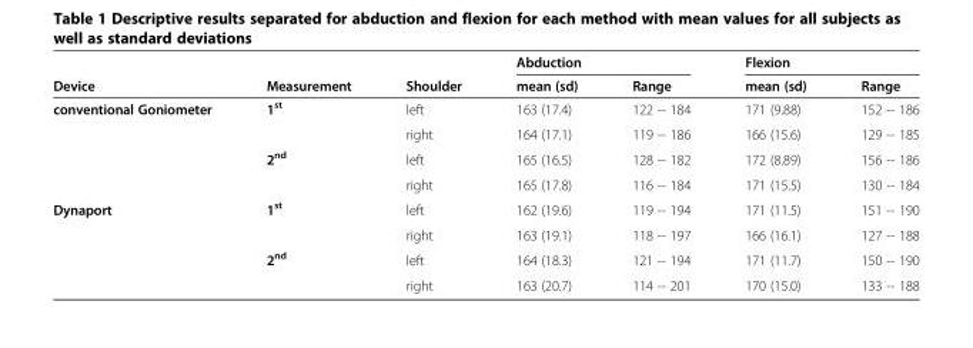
<table><thead><tr><td rowspan="2">Device</td><td rowspan="2">Measurement</td><td rowspan="2">Shoulder</td><td colspan="2">Abduction</td><td colspan="2">Flexion</td></tr><tr><td>mean (sd)</td><td>Range</td><td>mean (sd)</td><td>Range</td></tr></thead><tbody><tr><td rowspan="4">conventional Goniometer</td><td rowspan="2">1<sup>st</sup></td><td>left</td><td>163 (17.4)</td><td>122 -- 184</td><td>171 (9.88)</td><td>152 -- 186</td></tr><tr><td>right</td><td>164 (17.1)</td><td>119 -- 186</td><td>166 (15.6)</td><td>129 -- 185</td></tr><tr><td rowspan="2">2<sup>nd</sup></td><td>left</td><td>165 (16.5)</td><td>128 -- 182</td><td>172 (8.89)</td><td>156 -- 186</td></tr><tr><td>right</td><td>165 (17.8)</td><td>116 -- 184</td><td>171 (15.5)</td><td>130 -- 184</td></tr><tr><td rowspan="4">Dynaport</td><td rowspan="2">1<sup>st</sup></td><td>left</td><td>162 (19.6)</td><td>119 -- 194</td><td>171 (11.5)</td><td>151 -- 190</td></tr><tr><td>right</td><td>163 (19.1)</td><td>118 -- 197</td><td>166 (16.1)</td><td>127 -- 188</td></tr><tr><td rowspan="2">2<sup>nd</sup></td><td>left</td><td>164 (18.3)</td><td>121 -- 194</td><td>171 (11.7)</td><td>150 -- 190</td></tr><tr><td>right</td><td>163 (20.7)</td><td>114 -- 201</td><td>170 (15.0)</td><td>133 -- 188</td></tr></tbody></table>